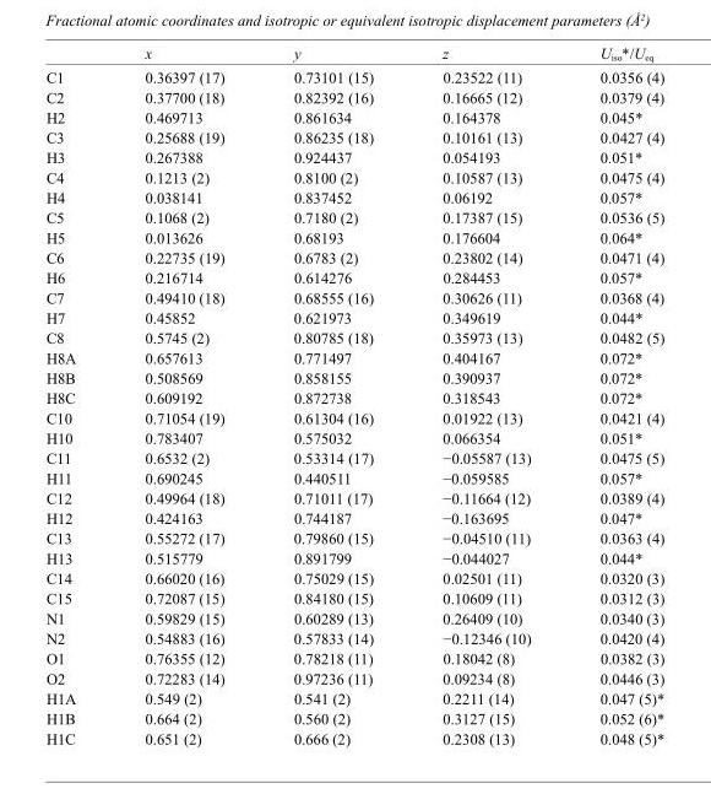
<table><thead><tr><td></td><td>x</td><td>y</td><td>z</td><td>U<sub>iso</sub>*/U<sub>eq</sub></td></tr></thead><tbody><tr><td>C1</td><td>0.36397 (17)</td><td>0.73101 (15)</td><td>0.23522 (11)</td><td>0.0356 (4)</td></tr><tr><td>C2</td><td>0.37700 (18)</td><td>0.82392 (16)</td><td>0.16665 (12)</td><td>0.0379 (4)</td></tr><tr><td>H2</td><td>0.469713</td><td>0.861634</td><td>0.164378</td><td>0.045*</td></tr><tr><td>C3</td><td>0.25688 (19)</td><td>0.86235 (18)</td><td>0.10161 (13)</td><td>0.0427 (4)</td></tr><tr><td>H3</td><td>0.267388</td><td>0.924437</td><td>0.054193</td><td>0.051*</td></tr><tr><td>C4</td><td>0.1213 (2)</td><td>0.8100 (2)</td><td>0.10587 (13)</td><td>0.0475 (4)</td></tr><tr><td>H4</td><td>0.038141</td><td>0.837452</td><td>0.06192</td><td>0.057*</td></tr><tr><td>C5</td><td>0.1068 (2)</td><td>0.7180 (2)</td><td>0.17387 (15)</td><td>0.0536 (5)</td></tr><tr><td>H5</td><td>0.013626</td><td>0.68193</td><td>0.176604</td><td>0.064*</td></tr><tr><td>C6</td><td>0.22735 (19)</td><td>0.6783 (2)</td><td>0.23802 (14)</td><td>0.0471 (4)</td></tr><tr><td>H6</td><td>0.216714</td><td>0.614276</td><td>0.284453</td><td>0.057*</td></tr><tr><td>C7</td><td>0.49410 (18)</td><td>0.68555 (16)</td><td>0.30626 (11)</td><td>0.0368 (4)</td></tr><tr><td>H7</td><td>0.45852</td><td>0.621973</td><td>0.349619</td><td>0.044*</td></tr><tr><td>C8</td><td>0.5745 (2)</td><td>0.80785 (18)</td><td>0.35973 (13)</td><td>0.0482 (5)</td></tr><tr><td>H8A</td><td>0.657613</td><td>0.771497</td><td>0.404167</td><td>0.072*</td></tr><tr><td>H8B</td><td>0.508569</td><td>0.858155</td><td>0.390937</td><td>0.072*</td></tr><tr><td>H8C</td><td>0.609192</td><td>0.872738</td><td>0.318543</td><td>0.072*</td></tr><tr><td>C10</td><td>0.71054 (19)</td><td>0.61304 (16)</td><td>0.01922 (13)</td><td>0.0421 (4)</td></tr><tr><td>H10</td><td>0.783407</td><td>0.575032</td><td>0.066354</td><td>0.051*</td></tr><tr><td>C11</td><td>0.6532 (2)</td><td>0.53314 (17)</td><td>−0.05587 (13)</td><td>0.0475 (5)</td></tr><tr><td>H11</td><td>0.690245</td><td>0.440511</td><td>−0.059585</td><td>0.057*</td></tr><tr><td>C12</td><td>0.49964 (18)</td><td>0.71011 (17)</td><td>−0.11664 (12)</td><td>0.0389 (4)</td></tr><tr><td>H12</td><td>0.424163</td><td>0.744187</td><td>−0.163695</td><td>0.047*</td></tr><tr><td>C13</td><td>0.55272 (17)</td><td>0.79860 (15)</td><td>−0.04510 (11)</td><td>0.0363 (4)</td></tr><tr><td>H13</td><td>0.515779</td><td>0.891799</td><td>−0.044027</td><td>0.044*</td></tr><tr><td>C14</td><td>0.66020 (16)</td><td>0.75029 (15)</td><td>0.02501 (11)</td><td>0.0320 (3)</td></tr><tr><td>C15</td><td>0.72087 (15)</td><td>0.84180 (15)</td><td>0.10609 (11)</td><td>0.0312 (3)</td></tr><tr><td>N1</td><td>0.59829 (15)</td><td>0.60289 (13)</td><td>0.26409 (10)</td><td>0.0340 (3)</td></tr><tr><td>N2</td><td>0.54883 (16)</td><td>0.57833 (14)</td><td>−0.12346 (10)</td><td>0.0420 (4)</td></tr><tr><td>O1</td><td>0.76355 (12)</td><td>0.78218 (11)</td><td>0.18042 (8)</td><td>0.0382 (3)</td></tr><tr><td>O2</td><td>0.72283 (14)</td><td>0.97236 (11)</td><td>0.09234 (8)</td><td>0.0446 (3)</td></tr><tr><td>H1A</td><td>0.549 (2)</td><td>0.541 (2)</td><td>0.2211 (14)</td><td>0.047 (5)*</td></tr><tr><td>H1B</td><td>0.664 (2)</td><td>0.560 (2)</td><td>0.3127 (15)</td><td>0.052 (6)*</td></tr><tr><td>H1C</td><td>0.651 (2)</td><td>0.666 (2)</td><td>0.2308 (13)</td><td>0.048 (5)*</td></tr></tbody></table>